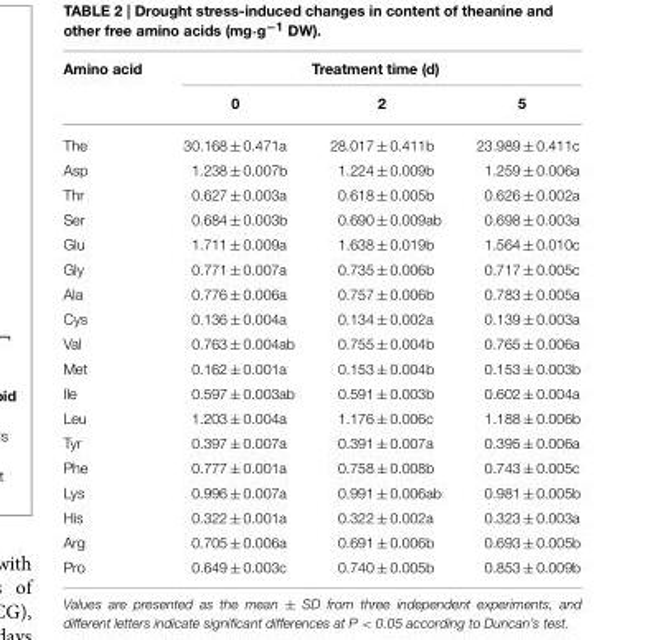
<table><thead><tr><td rowspan="2">Amino acid</td><td colspan="3">Treatment time (d)</td></tr><tr><td>0</td><td>2</td><td>5</td></tr></thead><tbody><tr><td>The</td><td>30.168 ± 0.471a</td><td>28.017 ± 0.411b</td><td>23.989 ± 0.411c</td></tr><tr><td>Asp</td><td>1.238 ± 0.007b</td><td>1.224 ± 0.009b</td><td>1.259 ± 0.006a</td></tr><tr><td>Thr</td><td>0.627 ± 0.003a</td><td>0.618 ± 0.005b</td><td>0.626 ± 0.002a</td></tr><tr><td>Ser</td><td>0.684 ± 0.003b</td><td>0.690 ± 0.009ab</td><td>0.698 ± 0.003a</td></tr><tr><td>Glu</td><td>1.711 ± 0.009a</td><td>1.638 ± 0.019b</td><td>1.564 ± 0.010c</td></tr><tr><td>Gly</td><td>0.771 ± 0.007a</td><td>0.735 ± 0.006b</td><td>0.717 ± 0.005c</td></tr><tr><td>Ala</td><td>0.776 ± 0.006a</td><td>0.757 ± 0.006b</td><td>0.783 ± 0.005a</td></tr><tr><td>Cys</td><td>0.136 ± 0.004a</td><td>0.134 ± 0.002a</td><td>0.139 ± 0.003a</td></tr><tr><td>Val</td><td>0.763 ± 0.004ab</td><td>0.755 ± 0.004b</td><td>0.765 ± 0.006a</td></tr><tr><td>Met</td><td>0.162 ± 0.001a</td><td>0.153 ± 0.004b</td><td>0.153 ± 0.003b</td></tr><tr><td>Ile</td><td>0.597 ± 0.003ab</td><td>0.591 ± 0.003b</td><td>0.602 ± 0.004a</td></tr><tr><td>Leu</td><td>1.203 ± 0.004a</td><td>1.176 ± 0.006c</td><td>1.188 ± 0.006b</td></tr><tr><td>Tyr</td><td>0.397 ± 0.007a</td><td>0.391 ± 0.007a</td><td>0.395 ± 0.006a</td></tr><tr><td>Phe</td><td>0.777 ± 0.001a</td><td>0.758 ± 0.008b</td><td>0.743 ± 0.005c</td></tr><tr><td>Lys</td><td>0.996 ± 0.007a</td><td>0.991 ± 0.006ab</td><td>0.981 ± 0.005b</td></tr><tr><td>His</td><td>0.322 ± 0.001a</td><td>0.322 ± 0.002a</td><td>0.323 ± 0.003a</td></tr><tr><td>Arg</td><td>0.705 ± 0.006a</td><td>0.691 ± 0.006b</td><td>0.693 ± 0.005b</td></tr><tr><td>Pro</td><td>0.649 ± 0.003c</td><td>0.740 ± 0.005b</td><td>0.853 ± 0.009b</td></tr></tbody></table>